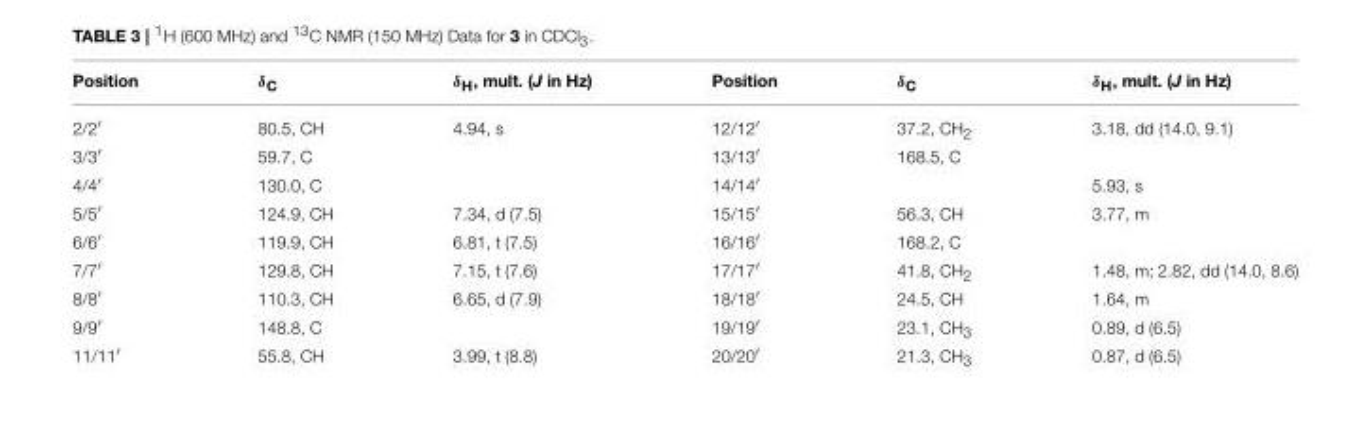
<table><thead><tr><td>Position</td><td>δ<sub>C</sub></td><td>δ<sub>H</sub>, mult. (J in Hz)</td><td>Position</td><td>δ<sub>C</sub></td><td>δ<sub>H</sub>, mult. (J in Hz)</td></tr></thead><tbody><tr><td>2/2′</td><td>80.5, CH</td><td>4.94, s</td><td>12/12′</td><td>37.2, CH<sub>2</sub></td><td>3.18, dd (14.0, 9.1)</td></tr><tr><td>3/3′</td><td>59.7, C</td><td></td><td>13/13′</td><td>168.5, C</td><td></td></tr><tr><td>4/4′</td><td>130.0, C</td><td></td><td>14/14′</td><td></td><td>5.93, s</td></tr><tr><td>5/5′</td><td>124.9, CH</td><td>7.34, d (7.5)</td><td>15/15′</td><td>56.3, CH</td><td>3.77, m</td></tr><tr><td>6/6′</td><td>119.9, CH</td><td>6.81, t (7.5)</td><td>16/16′</td><td>168.2, C</td><td></td></tr><tr><td>7/7′</td><td>129.8, CH</td><td>7.15, t (7.6)</td><td>17/17′</td><td>41.8, CH<sub>2</sub></td><td>1.48, m; 2.82, dd (14.0, 8.6)</td></tr><tr><td>8/8′</td><td>110.3, CH</td><td>6.65, d (7.9)</td><td>18/18′</td><td>24.5, CH</td><td>1.64, m</td></tr><tr><td>9/9′</td><td>148.8, C</td><td></td><td>19/19′</td><td>23.1, CH<sub>3</sub></td><td>0.89, d (6.5)</td></tr><tr><td>11/11′</td><td>55.8, CH</td><td>3.99, t (8.8)</td><td>20/20′</td><td>21.3, CH<sub>3</sub></td><td>0.87, d (6.5)</td></tr></tbody></table>